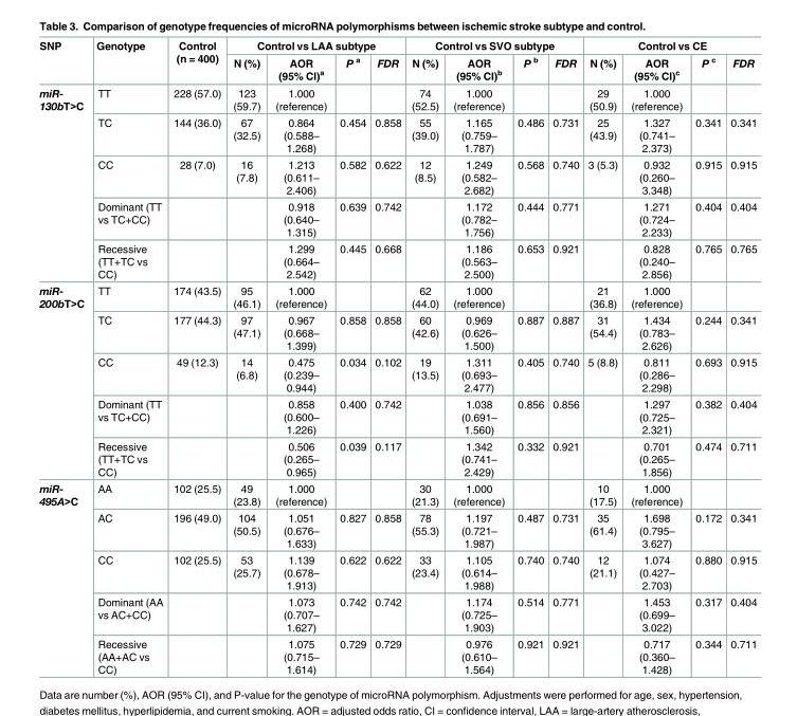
<table><thead><tr><td rowspan="2">SNP</td><td rowspan="2">Genotype</td><td rowspan="2">Control (n = 400)</td><td colspan="4">Control vs LAA subtype</td><td colspan="4">Control vs SVO subtype</td><td colspan="4">Control vs CE</td></tr><tr><td>N (%)</td><td>AOR (95% CI)<sup>a</sup></td><td>P <sup>a</sup></td><td>FDR</td><td>N (%)</td><td>AOR (95% CI)<sup>b</sup></td><td>P <sup>b</sup></td><td>FDR</td><td>N (%)</td><td>AOR (95% CI)<sup>c</sup></td><td>P <sup>c</sup></td><td>FDR</td></tr></thead><tbody><tr><td rowspan="5">miR- 130bT&gt;C</td><td>TT</td><td>228 (57.0)</td><td>123 (59.7)</td><td>1.000 (reference)</td><td></td><td></td><td>74 (52.5)</td><td>1.000 (reference)</td><td></td><td></td><td>29 (50.9)</td><td>1.000 (reference)</td><td></td><td></td></tr><tr><td>TC</td><td>144 (36.0)</td><td>67 (32.5)</td><td>0.864 (0.588– 1.268)</td><td>0.454</td><td>0.858</td><td>55 (39.0)</td><td>1.165 (0.759– 1.787)</td><td>0.486</td><td>0.731</td><td>25 (43.9)</td><td>1.327 (0.741– 2.373)</td><td>0.341</td><td>0.341</td></tr><tr><td>CC</td><td>28 (7.0)</td><td>16 (7.8)</td><td>1.213 (0.611– 2.406)</td><td>0.582</td><td>0.622</td><td>12 (8.5)</td><td>1.249 (0.582– 2.682)</td><td>0.568</td><td>0.740</td><td>3 (5.3)</td><td>0.932 (0.260– 3.348)</td><td>0.915</td><td>0.915</td></tr><tr><td>Dominant (TT vs TC+CC)</td><td></td><td></td><td>0.918 (0.640– 1.315)</td><td>0.639</td><td>0.742</td><td></td><td>1.172 (0.782– 1.756)</td><td>0.444</td><td>0.771</td><td></td><td>1.271 (0.724– 2.233)</td><td>0.404</td><td>0.404</td></tr><tr><td>Recessive (TT+TC vs CC)</td><td></td><td></td><td>1.299 (0.664– 2.542)</td><td>0.445</td><td>0.668</td><td></td><td>1.186 (0.563– 2.500)</td><td>0.653</td><td>0.921</td><td></td><td>0.828 (0.240– 2.856)</td><td>0.765</td><td>0.765</td></tr><tr><td rowspan="5">miR- 200bT&gt;C</td><td>TT</td><td>174 (43.5)</td><td>95 (46.1)</td><td>1.000 (reference)</td><td></td><td></td><td>62 (44.0)</td><td>1.000 (reference)</td><td></td><td></td><td>21 (36.8)</td><td>1.000 (reference)</td><td></td><td></td></tr><tr><td>TC</td><td>177 (44.3)</td><td>97 (47.1)</td><td>0.967 (0.668– 1.399)</td><td>0.858</td><td>0.858</td><td>60 (42.6)</td><td>0.969 (0.626– 1.500)</td><td>0.887</td><td>0.887</td><td>31 (54.4)</td><td>1.434 (0.783– 2.626)</td><td>0.244</td><td>0.341</td></tr><tr><td>CC</td><td>49 (12.3)</td><td>14 (6.8)</td><td>0.475 (0.239– 0.944)</td><td>0.034</td><td>0.102</td><td>19 (13.5)</td><td>1.311 (0.693– 2.477)</td><td>0.405</td><td>0.740</td><td>5 (8.8)</td><td>0.811 (0.286– 2.298)</td><td>0.693</td><td>0.915</td></tr><tr><td>Dominant (TT vs TC+CC)</td><td></td><td></td><td>0.858 (0.600– 1.226)</td><td>0.400</td><td>0.742</td><td></td><td>1.038 (0.691– 1.560)</td><td>0.856</td><td>0.856</td><td></td><td>1.297 (0.725– 2.321)</td><td>0.382</td><td>0.404</td></tr><tr><td>Recessive (TT+TC vs CC)</td><td></td><td></td><td>0.506 (0.265– 0.965)</td><td>0.039</td><td>0.117</td><td></td><td>1.342 (0.741– 2.429)</td><td>0.332</td><td>0.921</td><td></td><td>0.701 (0.265– 1.856)</td><td>0.474</td><td>0.711</td></tr><tr><td rowspan="5">miR- 495A&gt;C</td><td>AA</td><td>102 (25.5)</td><td>49 (23.8)</td><td>1.000 (reference)</td><td></td><td></td><td>30 (21.3)</td><td>1.000 (reference)</td><td></td><td></td><td>10 (17.5)</td><td>1.000 (reference)</td><td></td><td></td></tr><tr><td>AC</td><td>196 (49.0)</td><td>104 (50.5)</td><td>1.051 (0.676– 1.633)</td><td>0.827</td><td>0.858</td><td>78 (55.3)</td><td>1.197 (0.721– 1.987)</td><td>0.487</td><td>0.731</td><td>35 (61.4)</td><td>1.698 (0.795– 3.627)</td><td>0.172</td><td>0.341</td></tr><tr><td>CC</td><td>102 (25.5)</td><td>53 (25.7)</td><td>1.139 (0.678– 1.913)</td><td>0.622</td><td>0.622</td><td>33 (23.4)</td><td>1.105 (0.614– 1.988)</td><td>0.740</td><td>0.740</td><td>12 (21.1)</td><td>1.074 (0.427– 2.703)</td><td>0.880</td><td>0.915</td></tr><tr><td>Dominant (AA vs AC+CC)</td><td></td><td></td><td>1.073 (0.707– 1.627)</td><td>0.742</td><td>0.742</td><td></td><td>1.174 (0.725– 1.903)</td><td>0.514</td><td>0.771</td><td></td><td>1.453 (0.699– 3.022)</td><td>0.317</td><td>0.404</td></tr><tr><td>Recessive (AA+AC vs CC)</td><td></td><td></td><td>1.075 (0.715– 1.614)</td><td>0.729</td><td>0.729</td><td></td><td>0.976 (0.610– 1.564)</td><td>0.921</td><td>0.921</td><td></td><td>0.717 (0.360– 1.428)</td><td>0.344</td><td>0.711</td></tr></tbody></table>